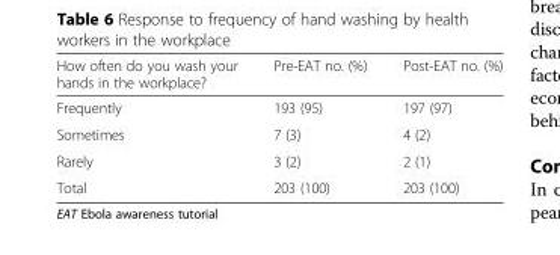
<table><thead><tr><td>How often do you wash your hands in the workplace?</td><td>Pre-EAT no. (%)</td><td>Post-EAT no. (%)</td></tr></thead><tbody><tr><td>Frequently</td><td>193 (95)</td><td>197 (97)</td></tr><tr><td>Sometimes</td><td>7 (3)</td><td>4 (2)</td></tr><tr><td>Rarely</td><td>3 (2)</td><td>2 (1)</td></tr><tr><td>Total</td><td>203 (100)</td><td>203 (100)</td></tr></tbody></table>